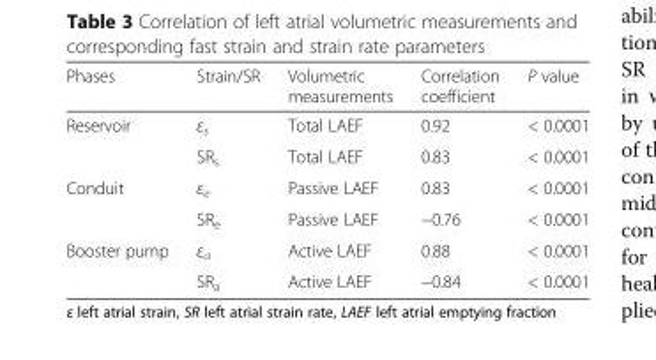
<table><thead><tr><td>Phases</td><td>Strain/SR</td><td>Volumetric measurements</td><td>Correlation coefficient</td><td>P value</td></tr></thead><tbody><tr><td rowspan="2">Reservoir</td><td>ε<sub>s</sub></td><td>Total LAEF</td><td>0.92</td><td>&lt; 0.0001</td></tr><tr><td>SR<sub>s</sub></td><td>Total LAEF</td><td>0.83</td><td>&lt; 0.0001</td></tr><tr><td rowspan="2">Conduit</td><td>ε<sub>e</sub></td><td>Passive LAEF</td><td>0.83</td><td>&lt; 0.0001</td></tr><tr><td>SR<sub>e</sub></td><td>Passive LAEF</td><td>−0.76</td><td>&lt; 0.0001</td></tr><tr><td rowspan="2">Booster pump</td><td>ε<sub>a</sub></td><td>Active LAEF</td><td>0.88</td><td>&lt; 0.0001</td></tr><tr><td>SR<sub>a</sub></td><td>Active LAEF</td><td>−0.84</td><td>&lt; 0.0001</td></tr></tbody></table>